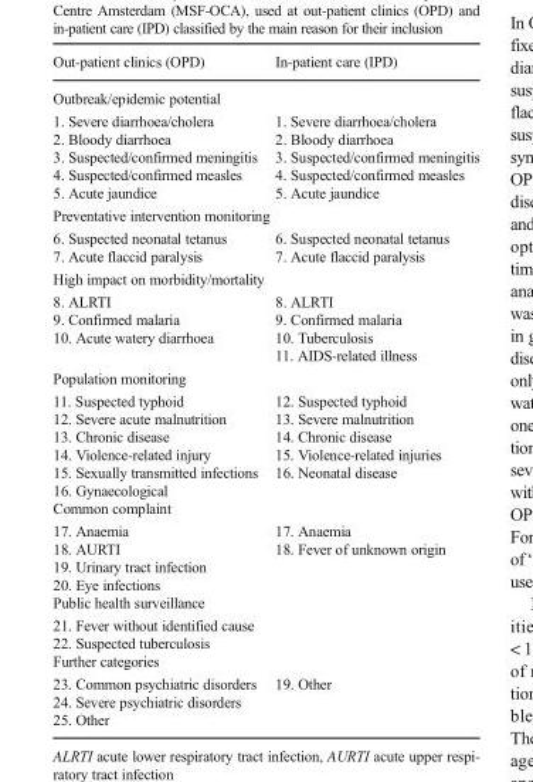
<table><thead><tr><td>Out-patient clinics (OPD)</td><td>In-patient care (IPD)</td></tr></thead><tbody><tr><td colspan="2">Outbreak/epidemic potential</td></tr><tr><td>1. Severe diarrhoea/cholera 2. Bloody diarrhoea 3. Suspected/confirmed meningitis 4. Suspected/confirmed measles 5. Acute jaundice</td><td>1. Severe diarrhoea/cholera 2. Bloody diarrhoea 3. Suspected/confirmed meningitis 4. Suspected/confirmed measles 5. Acute jaundice</td></tr><tr><td colspan="2">Preventative intervention monitoring</td></tr><tr><td>6. Suspected neonatal tetanus 7. Acute flaccid paralysis</td><td>6. Suspected neonatal tetanus 7. Acute flaccid paralysis</td></tr><tr><td colspan="2">High impact on morbidity/mortality</td></tr><tr><td>8. ALRTI 9. Confirmed malaria 10. Acute watery diarrhoea</td><td>8. ALRTI 9. Confirmed malaria 10. Tuberculosis 11. AIDS-related illness</td></tr><tr><td colspan="2">Population monitoring</td></tr><tr><td>11. Suspected typhoid 12. Severe acute malnutrition 13. Chronic disease 14. Violence-related injury 15. Sexually transmitted infections 16. Gynaecological</td><td>12. Suspected typhoid 13. Severe malnutrition 14. Chronic disease 15. Violence-related injuries 16. Neonatal disease</td></tr><tr><td colspan="2">Common complaint</td></tr><tr><td>17. Anaemia 18. AURTI 19. Urinary tract infection 20. Eye infections</td><td>17. Anaemia 18. Fever of unknown origin</td></tr><tr><td colspan="2">Public health surveillance</td></tr><tr><td colspan="2">21. Fever without identified cause 22. Suspected tuberculosis</td></tr><tr><td colspan="2">Further categories</td></tr><tr><td>23. Common psychiatric disorders 24. Severe psychiatric disorders 25. Other</td><td>19. Other</td></tr></tbody></table>